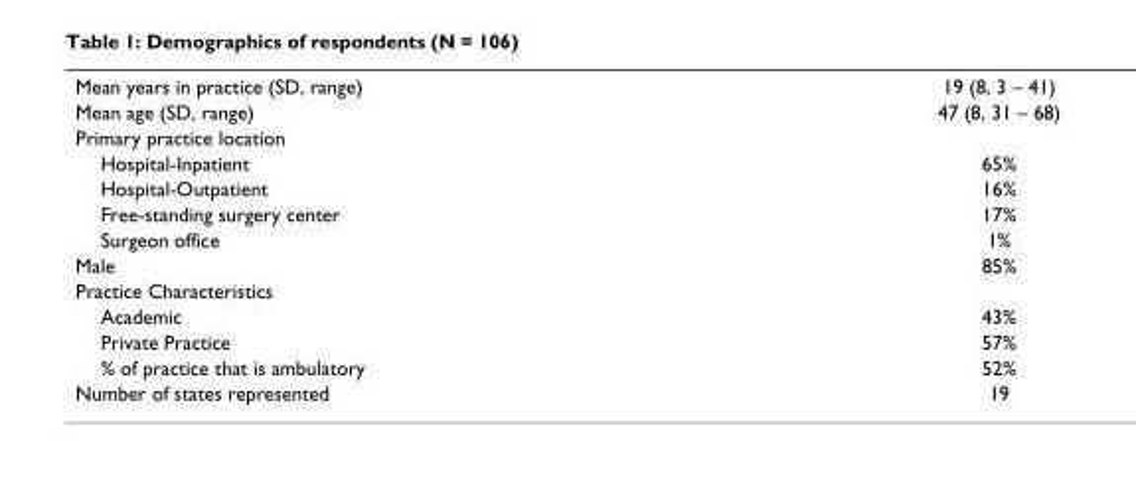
<table><tbody><tr><td>Mean years in practice (SD, range)</td><td>19 (8, 3 – 41)</td></tr><tr><td>Mean age (SD, range)</td><td>47 (8, 31 – 68)</td></tr><tr><td colspan="2">Primary practice location</td></tr><tr><td>Hospital-Inpatient</td><td>65%</td></tr><tr><td>Hospital-Outpatient</td><td>16%</td></tr><tr><td>Free-standing surgery center</td><td>17%</td></tr><tr><td>Surgeon office</td><td>1%</td></tr><tr><td>Male</td><td>85%</td></tr><tr><td colspan="2">Practice Characteristics</td></tr><tr><td>Academic</td><td>43%</td></tr><tr><td>Private Practice</td><td>57%</td></tr><tr><td>% of practice that is ambulatory</td><td>52%</td></tr><tr><td>Number of states represented</td><td>19</td></tr></tbody></table>